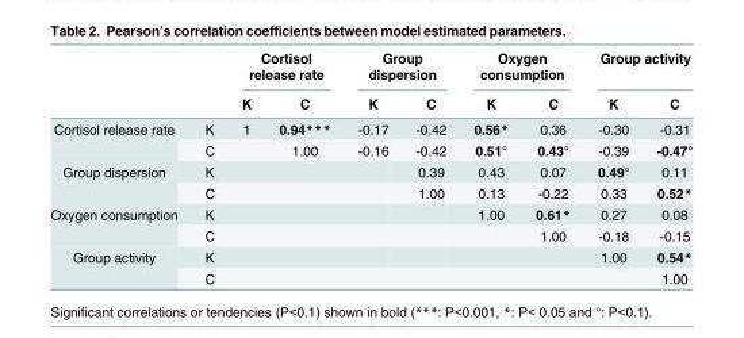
<table><thead><tr><td rowspan="2"></td><td rowspan="2"></td><td colspan="2">Cortisol release rate</td><td colspan="2">Group dispersion</td><td colspan="2">Oxygen consumption</td><td colspan="2">Group activity</td></tr><tr><td>K</td><td>C</td><td>K</td><td>C</td><td>K</td><td>C</td><td>K</td><td>C</td></tr></thead><tbody><tr><td rowspan="2">Cortisol release rate</td><td>K</td><td>1</td><td>0.94***</td><td>-0.17</td><td>-0.42</td><td>0.56*</td><td>0.36</td><td>-0.30</td><td>-0.31</td></tr><tr><td>C</td><td></td><td>1.00</td><td>-0.16</td><td>-0.42</td><td>0.51°</td><td>0.43°</td><td>-0.39</td><td>-0.47°</td></tr><tr><td rowspan="2">Group dispersion</td><td>K</td><td></td><td></td><td></td><td>0.39</td><td>0.43</td><td>0.07</td><td>0.49°</td><td>0.11</td></tr><tr><td>C</td><td></td><td></td><td></td><td>1.00</td><td>0.13</td><td>-0.22</td><td>0.33</td><td>0.52*</td></tr><tr><td rowspan="2">Oxygen consumption</td><td>K</td><td></td><td></td><td></td><td></td><td>1.00</td><td>0.61*</td><td>0.27</td><td>0.08</td></tr><tr><td>C</td><td></td><td></td><td></td><td></td><td></td><td>1.00</td><td>-0.18</td><td>-0.15</td></tr><tr><td rowspan="2">Group activity</td><td>K</td><td></td><td></td><td></td><td></td><td></td><td></td><td>1.00</td><td>0.54*</td></tr><tr><td>C</td><td></td><td></td><td></td><td></td><td></td><td></td><td></td><td>1.00</td></tr></tbody></table>